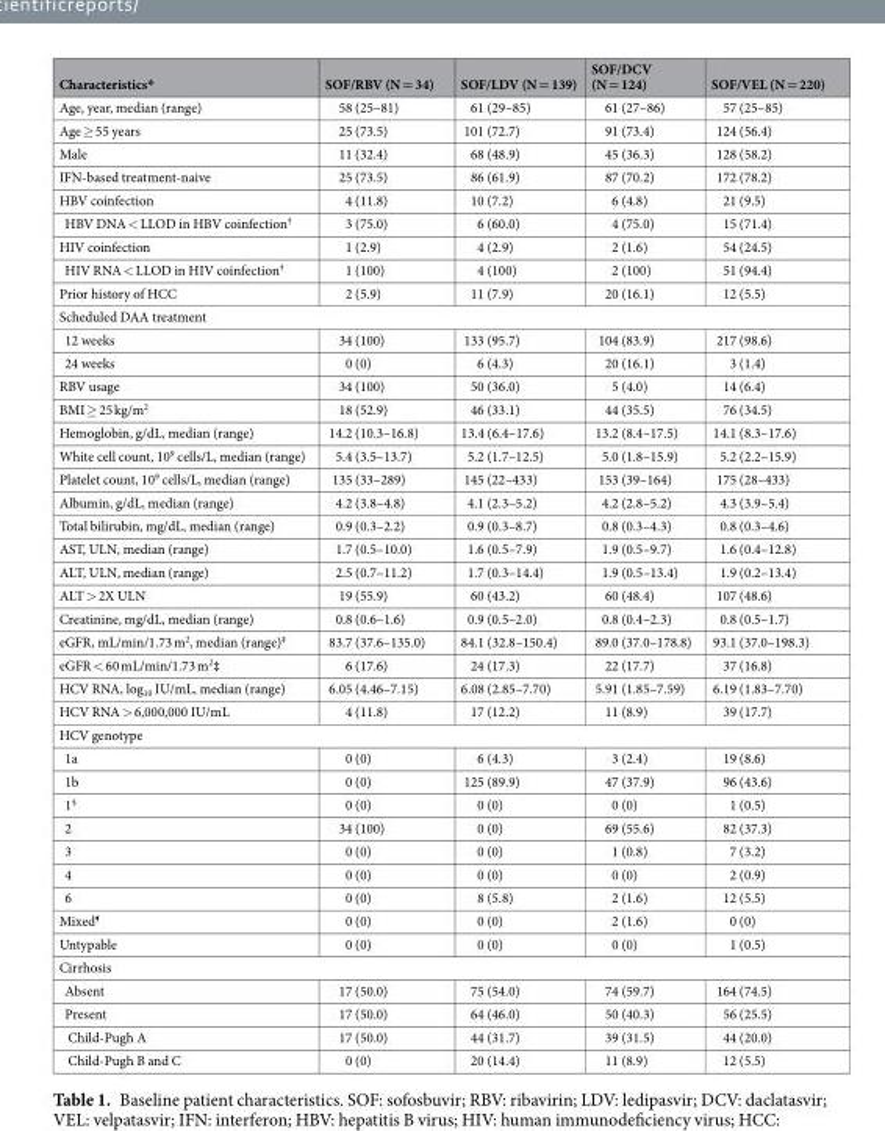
<table><thead><tr><td>Characteristics*</td><td>SOF/RBV (N = 34)</td><td>SOF/LDV (N = 139)</td><td>SOF/DCV (N = 124)</td><td>SOF/VEL (N = 220)</td></tr></thead><tbody><tr><td>Age, year, median (range)</td><td>58 (25–81)</td><td>61 (29–85)</td><td>61 (27–86)</td><td>57 (25–85)</td></tr><tr><td>Age ≥ 55 years</td><td>25 (73.5)</td><td>101 (72.7)</td><td>91 (73.4)</td><td>124 (56.4)</td></tr><tr><td>Male</td><td>11 (32.4)</td><td>68 (48.9)</td><td>45 (36.3)</td><td>128 (58.2)</td></tr><tr><td>IFN-based treatment-naive</td><td>25 (73.5)</td><td>86 (61.9)</td><td>87 (70.2)</td><td>172 (78.2)</td></tr><tr><td>HBV coinfection</td><td>4 (11.8)</td><td>10 (7.2)</td><td>6 (4.8)</td><td>21 (9.5)</td></tr><tr><td>HBV DNA &lt; LLOD in HBV coinfection<sup>†</sup></td><td>3 (75.0)</td><td>6 (60.0)</td><td>4 (75.0)</td><td>15 (71.4)</td></tr><tr><td>HIV coinfection</td><td>1 (2.9)</td><td>4 (2.9)</td><td>2 (1.6)</td><td>54 (24.5)</td></tr><tr><td>HIV RNA &lt; LLOD in HIV coinfection<sup>†</sup></td><td>1 (100)</td><td>4 (100)</td><td>2 (100)</td><td>51 (94.4)</td></tr><tr><td>Prior history of HCC</td><td>2 (5.9)</td><td>11 (7.9)</td><td>20 (16.1)</td><td>12 (5.5)</td></tr><tr><td colspan="5">Scheduled DAA treatment</td></tr><tr><td>12 weeks</td><td>34 (100)</td><td>133 (95.7)</td><td>104 (83.9)</td><td>217 (98.6)</td></tr><tr><td>24 weeks</td><td>0 (0)</td><td>6 (4.3)</td><td>20 (16.1)</td><td>3 (1.4)</td></tr><tr><td>RBV usage</td><td>34 (100)</td><td>50 (36.0)</td><td>5 (4.0)</td><td>14 (6.4)</td></tr><tr><td>BMI ≥ 25 kg/m<sup>2</sup></td><td>18 (52.9)</td><td>46 (33.1)</td><td>44 (35.5)</td><td>76 (34.5)</td></tr><tr><td>Hemoglobin, g/dL, median (range)</td><td>14.2 (10.3–16.8)</td><td>13.4 (6.4–17.6)</td><td>13.2 (8.4–17.5)</td><td>14.1 (8.3–17.6)</td></tr><tr><td>White cell count, 10<sup>9</sup> cells/L, median (range)</td><td>5.4 (3.5–13.7)</td><td>5.2 (1.7–12.5)</td><td>5.0 (1.8–15.9)</td><td>5.2 (2.2–15.9)</td></tr><tr><td>Platelet count, 10<sup>9</sup> cells/L, median (range)</td><td>135 (33–289)</td><td>145 (22–433)</td><td>153 (39–164)</td><td>175 (28–433)</td></tr><tr><td>Albumin, g/dL, median (range)</td><td>4.2 (3.8–4.8)</td><td>4.1 (2.3–5.2)</td><td>4.2 (2.8–5.2)</td><td>4.3 (3.9–5.4)</td></tr><tr><td>Total bilirubin, mg/dL, median (range)</td><td>0.9 (0.3–2.2)</td><td>0.9 (0.3–8.7)</td><td>0.8 (0.3–4.3)</td><td>0.8 (0.3–4.6)</td></tr><tr><td>AST, ULN, median (range)</td><td>1.7 (0.5–10.0)</td><td>1.6 (0.5–7.9)</td><td>1.9 (0.5–9.7)</td><td>1.6 (0.4–12.8)</td></tr><tr><td>ALT, ULN, median (range)</td><td>2.5 (0.7–11.2)</td><td>1.7 (0.3–14.4)</td><td>1.9 (0.5–13.4)</td><td>1.9 (0.2–13.4)</td></tr><tr><td>ALT &gt; 2X ULN</td><td>19 (55.9)</td><td>60 (43.2)</td><td>60 (48.4)</td><td>107 (48.6)</td></tr><tr><td>Creatinine, mg/dL, median (range)</td><td>0.8 (0.6–1.6)</td><td>0.9 (0.5–2.0)</td><td>0.8 (0.4–2.3)</td><td>0.8 (0.5–1.7)</td></tr><tr><td>eGFR, mL/min/1.73 m<sup>2</sup>, median (range)<sup>‡</sup></td><td>83.7 (37.6–135.0)</td><td>84.1 (32.8–150.4)</td><td>89.0 (37.0–178.8)</td><td>93.1 (37.0–198.3)</td></tr><tr><td>eGFR &lt; 60 mL/min/1.73 m<sup>2</sup>‡</td><td>6 (17.6)</td><td>24 (17.3)</td><td>22 (17.7)</td><td>37 (16.8)</td></tr><tr><td>HCV RNA, log<sub>10</sub> IU/mL, median (range)</td><td>6.05 (4.46–7.15)</td><td>6.08 (2.85–7.70)</td><td>5.91 (1.85–7.59)</td><td>6.19 (1.83–7.70)</td></tr><tr><td>HCV RNA &gt; 6,000,000 IU/mL</td><td>4 (11.8)</td><td>17 (12.2)</td><td>11 (8.9)</td><td>39 (17.7)</td></tr><tr><td colspan="5">HCV genotype</td></tr><tr><td>1a</td><td>0 (0)</td><td>6 (4.3)</td><td>3 (2.4)</td><td>19 (8.6)</td></tr><tr><td>1b</td><td>0 (0)</td><td>125 (89.9)</td><td>47 (37.9)</td><td>96 (43.6)</td></tr><tr><td>1<sup>§</sup></td><td>0 (0)</td><td>0 (0)</td><td>0 (0)</td><td>1 (0.5)</td></tr><tr><td>2</td><td>34 (100)</td><td>0 (0)</td><td>69 (55.6)</td><td>82 (37.3)</td></tr><tr><td>3</td><td>0 (0)</td><td>0 (0)</td><td>1 (0.8)</td><td>7 (3.2)</td></tr><tr><td>4</td><td>0 (0)</td><td>0 (0)</td><td>0 (0)</td><td>2 (0.9)</td></tr><tr><td>6</td><td>0 (0)</td><td>8 (5.8)</td><td>2 (1.6)</td><td>12 (5.5)</td></tr><tr><td>Mixed<sup>¶</sup></td><td>0 (0)</td><td>0 (0)</td><td>2 (1.6)</td><td>0 (0)</td></tr><tr><td>Untypable</td><td>0 (0)</td><td>0 (0)</td><td>0 (0)</td><td>1 (0.5)</td></tr><tr><td colspan="5">Cirrhosis</td></tr><tr><td>Absent</td><td>17 (50.0)</td><td>75 (54.0)</td><td>74 (59.7)</td><td>164 (74.5)</td></tr><tr><td>Present</td><td>17 (50.0)</td><td>64 (46.0)</td><td>50 (40.3)</td><td>56 (25.5)</td></tr><tr><td>Child-Pugh A</td><td>17 (50.0)</td><td>44 (31.7)</td><td>39 (31.5)</td><td>44 (20.0)</td></tr><tr><td>Child-Pugh B and C</td><td>0 (0)</td><td>20 (14.4)</td><td>11 (8.9)</td><td>12 (5.5)</td></tr></tbody></table>